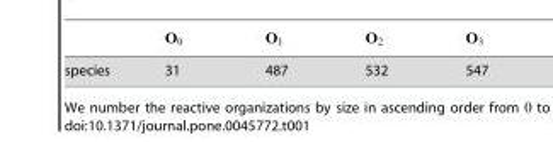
<table><tbody><tr><td>species</td><td>31</td><td>487</td><td>532</td><td>547</td></tr></tbody></table>